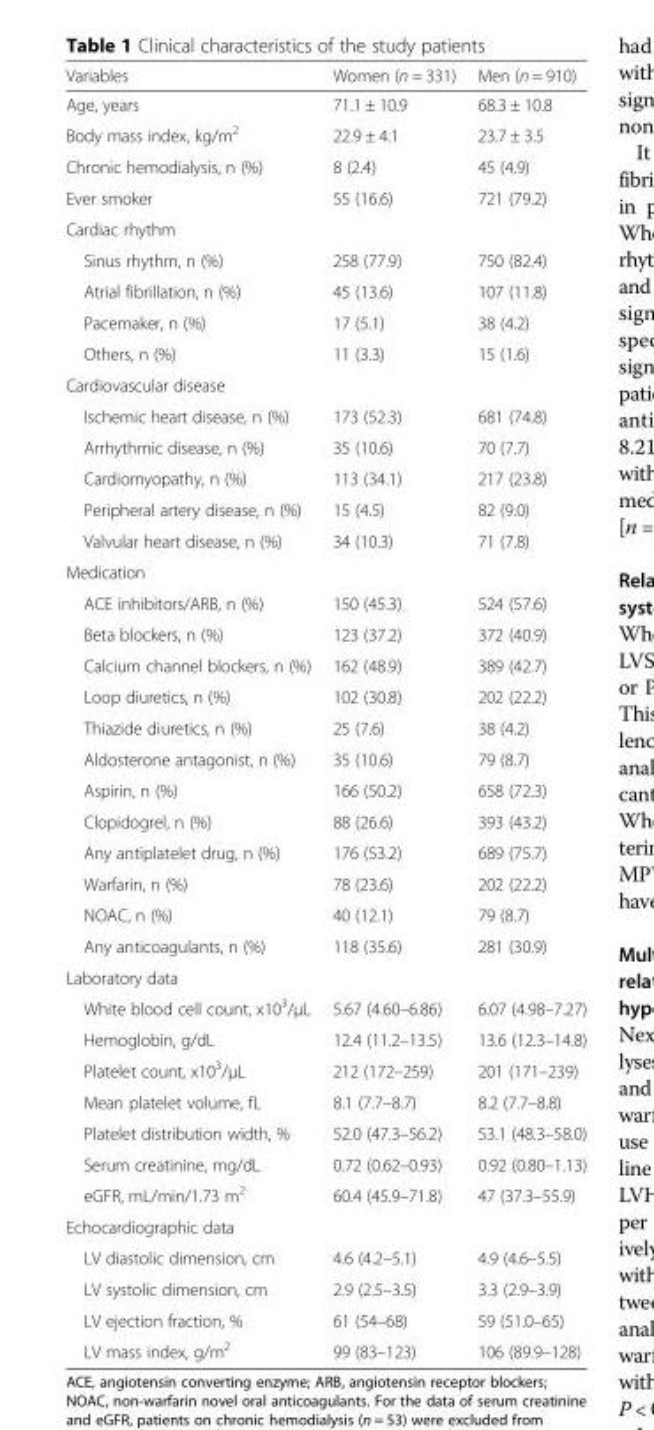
<table><thead><tr><td>Variables</td><td>Women (n = 331)</td><td>Men (n = 910)</td></tr></thead><tbody><tr><td>Age, years</td><td>71.1 ± 10.9</td><td>68.3 ± 10.8</td></tr><tr><td>Body mass index, kg/m<sup>2</sup></td><td>22.9 ± 4.1</td><td>23.7 ± 3.5</td></tr><tr><td>Chronic hemodialysis, n (%)</td><td>8 (2.4)</td><td>45 (4.9)</td></tr><tr><td>Ever smoker</td><td>55 (16.6)</td><td>721 (79.2)</td></tr><tr><td colspan="3">Cardiac rhythm</td></tr><tr><td>Sinus rhythm, n (%)</td><td>258 (77.9)</td><td>750 (82.4)</td></tr><tr><td>Atrial fibrillation, n (%)</td><td>45 (13.6)</td><td>107 (11.8)</td></tr><tr><td>Pacemaker, n (%)</td><td>17 (5.1)</td><td>38 (4.2)</td></tr><tr><td>Others, n (%)</td><td>11 (3.3)</td><td>15 (1.6)</td></tr><tr><td colspan="3">Cardiovascular disease</td></tr><tr><td>Ischemic heart disease, n (%)</td><td>173 (52.3)</td><td>681 (74.8)</td></tr><tr><td>Arrhythmic disease, n (%)</td><td>35 (10.6)</td><td>70 (7.7)</td></tr><tr><td>Cardiomyopathy, n (%)</td><td>113 (34.1)</td><td>217 (23.8)</td></tr><tr><td>Peripheral artery disease, n (%)</td><td>15 (4.5)</td><td>82 (9.0)</td></tr><tr><td>Valvular heart disease, n (%)</td><td>34 (10.3)</td><td>71 (7.8)</td></tr><tr><td colspan="3">Medication</td></tr><tr><td>ACE inhibitors/ARB, n (%)</td><td>150 (45.3)</td><td>524 (57.6)</td></tr><tr><td>Beta blockers, n (%)</td><td>123 (37.2)</td><td>372 (40.9)</td></tr><tr><td>Calcium channel blockers, n (%)</td><td>162 (48.9)</td><td>389 (42.7)</td></tr><tr><td>Loop diuretics, n (%)</td><td>102 (30.8)</td><td>202 (22.2)</td></tr><tr><td>Thiazide diuretics, n (%)</td><td>25 (7.6)</td><td>38 (4.2)</td></tr><tr><td>Aldosterone antagonist, n (%)</td><td>35 (10.6)</td><td>79 (8.7)</td></tr><tr><td>Aspirin, n (%)</td><td>166 (50.2)</td><td>658 (72.3)</td></tr><tr><td>Clopidogrel, n (%)</td><td>88 (26.6)</td><td>393 (43.2)</td></tr><tr><td>Any antiplatelet drug, n (%)</td><td>176 (53.2)</td><td>689 (75.7)</td></tr><tr><td>Warfarin, n (%)</td><td>78 (23.6)</td><td>202 (22.2)</td></tr><tr><td>NOAC, n (%)</td><td>40 (12.1)</td><td>79 (8.7)</td></tr><tr><td>Any anticoagulants, n (%)</td><td>118 (35.6)</td><td>281 (30.9)</td></tr><tr><td colspan="3">Laboratory data</td></tr><tr><td>White blood cell count, x10<sup>3</sup>/μL</td><td>5.67 (4.60–6.86)</td><td>6.07 (4.98–7.27)</td></tr><tr><td>Hemoglobin, g/dL</td><td>12.4 (11.2–13.5)</td><td>13.6 (12.3–14.8)</td></tr><tr><td>Platelet count, x10<sup>3</sup>/μL</td><td>212 (172–259)</td><td>201 (171–239)</td></tr><tr><td>Mean platelet volume, fL</td><td>8.1 (7.7–8.7)</td><td>8.2 (7.7–8.8)</td></tr><tr><td>Platelet distribution width, %</td><td>52.0 (47.3–56.2)</td><td>53.1 (48.3–58.0)</td></tr><tr><td>Serum creatinine, mg/dL</td><td>0.72 (0.62–0.93)</td><td>0.92 (0.80–1.13)</td></tr><tr><td>eGFR, mL/min/1.73 m<sup>2</sup></td><td>60.4 (45.9–71.8)</td><td>47 (37.3–55.9)</td></tr><tr><td colspan="3">Echocardiographic data</td></tr><tr><td>LV diastolic dimension, cm</td><td>4.6 (4.2–5.1)</td><td>4.9 (4.6–5.5)</td></tr><tr><td>LV systolic dimension, cm</td><td>2.9 (2.5–3.5)</td><td>3.3 (2.9–3.9)</td></tr><tr><td>LV ejection fraction, %</td><td>61 (54–68)</td><td>59 (51.0–65)</td></tr><tr><td>LV mass index, g/m<sup>2</sup></td><td>99 (83–123)</td><td>106 (89.9–128)</td></tr></tbody></table>